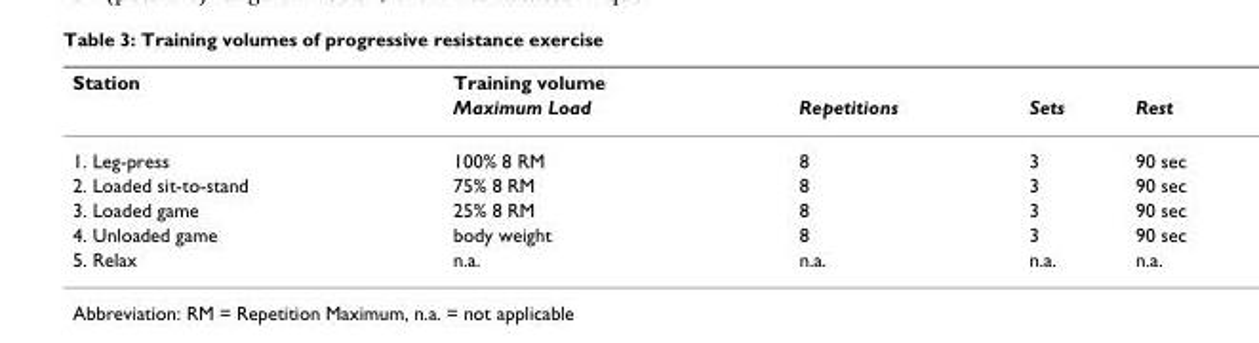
<table><thead><tr><td rowspan="2">Station</td><td rowspan="2">Training volume Maximum Load</td><td rowspan="2">Repetitions</td><td rowspan="2">Sets</td><td rowspan="2">Rest</td></tr><tr></tr></thead><tbody><tr><td>1. Leg-press</td><td>100% 8 RM</td><td>8</td><td>3</td><td>90 sec</td></tr><tr><td>2. Loaded sit-to-stand</td><td>75% 8 RM</td><td>8</td><td>3</td><td>90 sec</td></tr><tr><td>3. Loaded game</td><td>25% 8 RM</td><td>8</td><td>3</td><td>90 sec</td></tr><tr><td>4. Unloaded game</td><td>body weight</td><td>8</td><td>3</td><td>90 sec</td></tr><tr><td>5. Relax</td><td>n.a.</td><td>n.a.</td><td>n.a.</td><td>n.a.</td></tr></tbody></table>